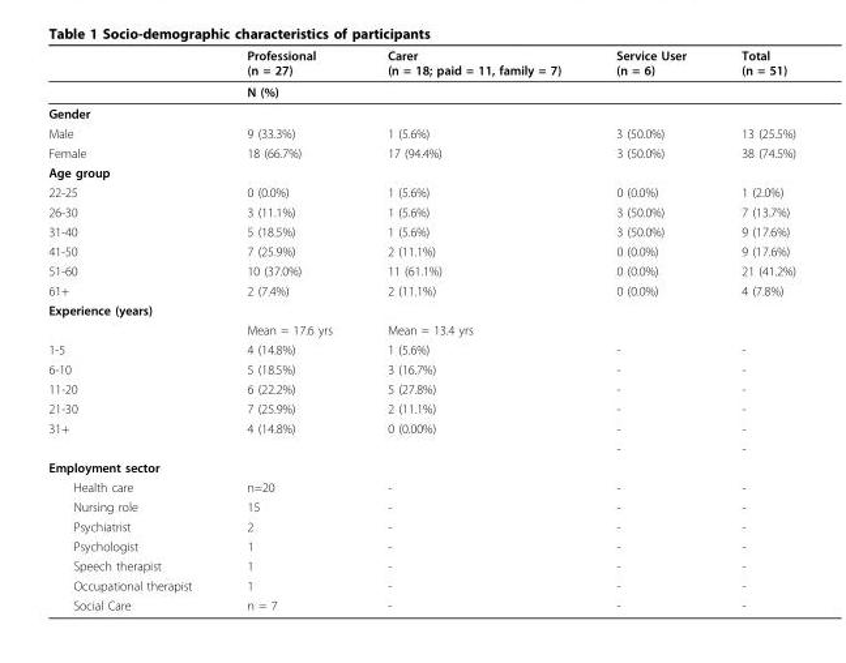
<table><thead><tr><td></td><td>Professional (n = 27)</td><td>Carer (n = 18; paid = 11, family = 7)</td><td>Service User (n = 6)</td><td>Total (n = 51)</td></tr></thead><tbody><tr><td></td><td colspan="4">N (%)</td></tr><tr><td colspan="5">Gender</td></tr><tr><td>Male</td><td>9 (33.3%)</td><td>1 (5.6%)</td><td>3 (50.0%)</td><td>13 (25.5%)</td></tr><tr><td>Female</td><td>18 (66.7%)</td><td>17 (94.4%)</td><td>3 (50.0%)</td><td>38 (74.5%)</td></tr><tr><td colspan="5">Age group</td></tr><tr><td>22-25</td><td>0 (0.0%)</td><td>1 (5.6%)</td><td>0 (0.0%)</td><td>1 (2.0%)</td></tr><tr><td>26-30</td><td>3 (11.1%)</td><td>1 (5.6%)</td><td>3 (50.0%)</td><td>7 (13.7%)</td></tr><tr><td>31-40</td><td>5 (18.5%)</td><td>1 (5.6%)</td><td>3 (50.0%)</td><td>9 (17.6%)</td></tr><tr><td>41-50</td><td>7 (25.9%)</td><td>2 (11.1%)</td><td>0 (0.0%)</td><td>9 (17.6%)</td></tr><tr><td>51-60</td><td>10 (37.0%)</td><td>11 (61.1%)</td><td>0 (0.0%)</td><td>21 (41.2%)</td></tr><tr><td>61+</td><td>2 (7.4%)</td><td>2 (11.1%)</td><td>0 (0.0%)</td><td>4 (7.8%)</td></tr><tr><td colspan="5">Experience (years)</td></tr><tr><td></td><td>Mean = 17.6 yrs</td><td>Mean = 13.4 yrs</td><td></td><td></td></tr><tr><td>1-5</td><td>4 (14.8%)</td><td>1 (5.6%)</td><td>-</td><td>-</td></tr><tr><td>6-10</td><td>5 (18.5%)</td><td>3 (16.7%)</td><td>-</td><td>-</td></tr><tr><td>11-20</td><td>6 (22.2%)</td><td>5 (27.8%)</td><td>-</td><td>-</td></tr><tr><td>21-30</td><td>7 (25.9%)</td><td>2 (11.1%)</td><td>-</td><td>-</td></tr><tr><td rowspan="2">31+</td><td>4 (14.8%)</td><td>0 (0.00%)</td><td>-</td><td>-</td></tr><tr><td></td><td></td><td>-</td><td>-</td></tr><tr><td colspan="5">Employment sector</td></tr><tr><td>Health care</td><td>n=20</td><td>-</td><td>-</td><td>-</td></tr><tr><td>Nursing role</td><td>15</td><td>-</td><td>-</td><td>-</td></tr><tr><td>Psychiatrist</td><td>2</td><td>-</td><td>-</td><td>-</td></tr><tr><td>Psychologist</td><td>1</td><td>-</td><td>-</td><td>-</td></tr><tr><td>Speech therapist</td><td>1</td><td>-</td><td>-</td><td>-</td></tr><tr><td>Occupational therapist</td><td>1</td><td>-</td><td>-</td><td>-</td></tr><tr><td>Social Care</td><td>n = 7</td><td>-</td><td>-</td><td>-</td></tr></tbody></table>